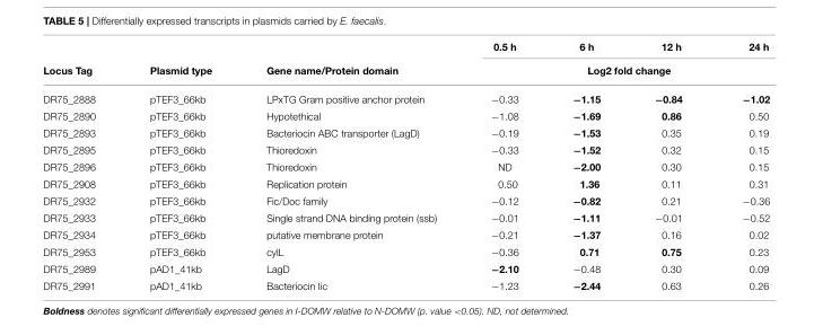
<table><thead><tr><td rowspan="2">Locus Tag</td><td rowspan="2">Plasmid type</td><td rowspan="2">Gene name/Protein domain</td><td>0.5 h</td><td>6 h</td><td>12 h</td><td>24 h</td></tr><tr><td colspan="4">Log2 fold change</td></tr></thead><tbody><tr><td>DR75_2888</td><td>pTEF3_66kb</td><td>LPxTG Gram positive anchor protein</td><td>−0.33</td><td>−1.15</td><td>−0.84</td><td>−1.02</td></tr><tr><td>DR75_2890</td><td>pTEF3_66kb</td><td>Hypotethical</td><td>−1.08</td><td>−1.69</td><td>0.86</td><td>0.50</td></tr><tr><td>DR75_2893</td><td>pTEF3_66kb</td><td>Bacteriocin ABC transporter (LagD)</td><td>−0.19</td><td>−1.53</td><td>0.35</td><td>0.19</td></tr><tr><td>DR75_2895</td><td>pTEF3_66kb</td><td>Thioredoxin</td><td>−0.33</td><td>−1.52</td><td>0.32</td><td>0.15</td></tr><tr><td>DR75_2896</td><td>pTEF3_66kb</td><td>Thioredoxin</td><td>ND</td><td>−2.00</td><td>0.30</td><td>0.15</td></tr><tr><td>DR75_2908</td><td>pTEF3_66kb</td><td>Replication protein</td><td>0.50</td><td>1.36</td><td>0.11</td><td>0.31</td></tr><tr><td>DR75_2932</td><td>pTEF3_66kb</td><td>Fic/Doc family</td><td>−0.12</td><td>−0.82</td><td>0.21</td><td>−0.36</td></tr><tr><td>DR75_2933</td><td>pTEF3_66kb</td><td>Single strand DNA binding protein (ssb)</td><td>−0.01</td><td>−1.11</td><td>−0.01</td><td>−0.52</td></tr><tr><td>DR75_2934</td><td>pTEF3_66kb</td><td>putative membrane protein</td><td>−0.21</td><td>−1.37</td><td>0.16</td><td>0.02</td></tr><tr><td>DR75_2953</td><td>pTEF3_66kb</td><td>cylL</td><td>−0.36</td><td>0.71</td><td>0.75</td><td>0.23</td></tr><tr><td>DR75_2989</td><td>pAD1_41kb</td><td>LagD</td><td>−2.10</td><td>−0.48</td><td>0.30</td><td>0.09</td></tr><tr><td>DR75_2991</td><td>pAD1_41kb</td><td>Bacteriocin Iic</td><td>−1.23</td><td>−2.44</td><td>0.63</td><td>0.26</td></tr></tbody></table>